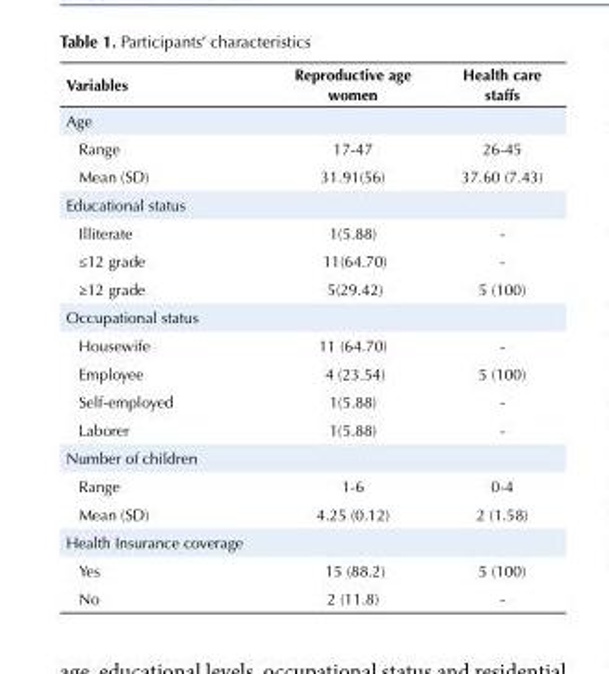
<table><tbody><tr><td>Variables</td><td>Reproductive age women</td><td>Health care staffs</td></tr><tr><td colspan="3">Age</td></tr><tr><td>Range</td><td>17-47</td><td>26-45</td></tr><tr><td>Mean (SD)</td><td>31.91(56)</td><td>37.60 (7.43)</td></tr><tr><td colspan="3">Educational status</td></tr><tr><td>Illiterate</td><td>1(5.88)</td><td>-</td></tr><tr><td>≤12 grade</td><td>11(64.70)</td><td>-</td></tr><tr><td>≥12 grade</td><td>5(29.42)</td><td>5 (100)</td></tr><tr><td colspan="3">Occupational status</td></tr><tr><td>Housewife</td><td>11 (64.70)</td><td>-</td></tr><tr><td>Employee</td><td>4 (23.54)</td><td>5 (100)</td></tr><tr><td>Self-employed</td><td>1(5.88)</td><td>-</td></tr><tr><td>Laborer</td><td>1(5.88)</td><td>-</td></tr><tr><td colspan="3">Number of children</td></tr><tr><td>Range</td><td>1-6</td><td>0-4</td></tr><tr><td>Mean (SD)</td><td>4.25 (0.12)</td><td>2 (1.58)</td></tr><tr><td colspan="3">Health Insurance coverage</td></tr><tr><td>Yes</td><td>15 (88.2)</td><td>5 (100)</td></tr><tr><td>No</td><td>2 (11.8)</td><td>-</td></tr></tbody></table>